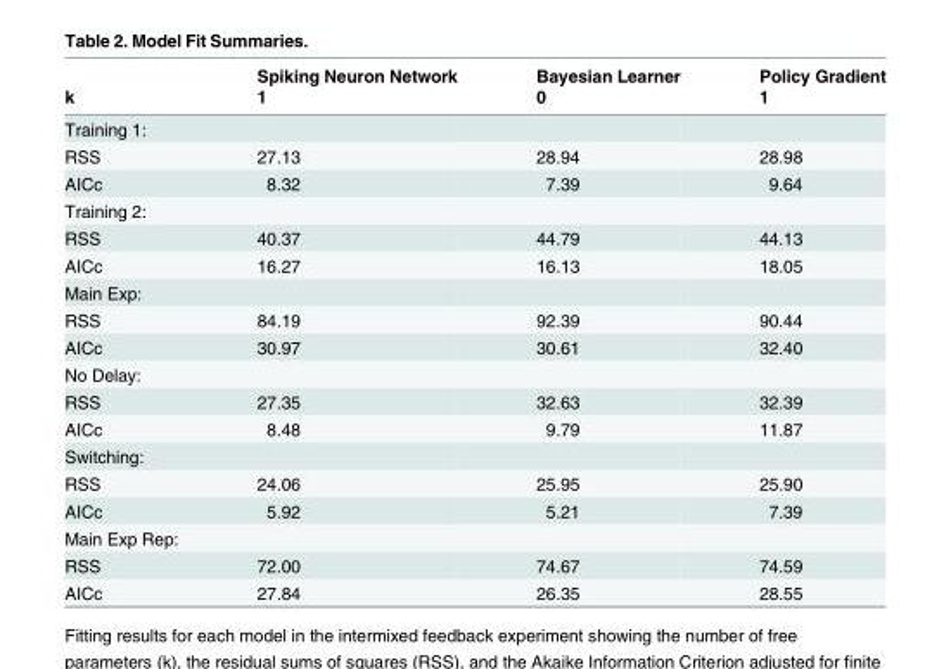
<table><thead><tr><td rowspan="2">k</td><td rowspan="2">Spiking Neuron Network 1</td><td rowspan="2">Bayesian Learner 0</td><td rowspan="2">Policy Gradient 1</td></tr><tr></tr></thead><tbody><tr><td colspan="4">Training 1:</td></tr><tr><td>RSS</td><td>27.13</td><td>28.94</td><td>28.98</td></tr><tr><td>AICc</td><td>8.32</td><td>7.39</td><td>9.64</td></tr><tr><td colspan="4">Training 2:</td></tr><tr><td>RSS</td><td>40.37</td><td>44.79</td><td>44.13</td></tr><tr><td>AICc</td><td>16.27</td><td>16.13</td><td>18.05</td></tr><tr><td colspan="4">Main Exp:</td></tr><tr><td>RSS</td><td>84.19</td><td>92.39</td><td>90.44</td></tr><tr><td>AICc</td><td>30.97</td><td>30.61</td><td>32.40</td></tr><tr><td colspan="4">No Delay:</td></tr><tr><td>RSS</td><td>27.35</td><td>32.63</td><td>32.39</td></tr><tr><td>AICc</td><td>8.48</td><td>9.79</td><td>11.87</td></tr><tr><td colspan="4">Switching:</td></tr><tr><td>RSS</td><td>24.06</td><td>25.95</td><td>25.90</td></tr><tr><td>AICc</td><td>5.92</td><td>5.21</td><td>7.39</td></tr><tr><td colspan="4">Main Exp Rep:</td></tr><tr><td>RSS</td><td>72.00</td><td>74.67</td><td>74.59</td></tr><tr><td>AICc</td><td>27.84</td><td>26.35</td><td>28.55</td></tr></tbody></table>